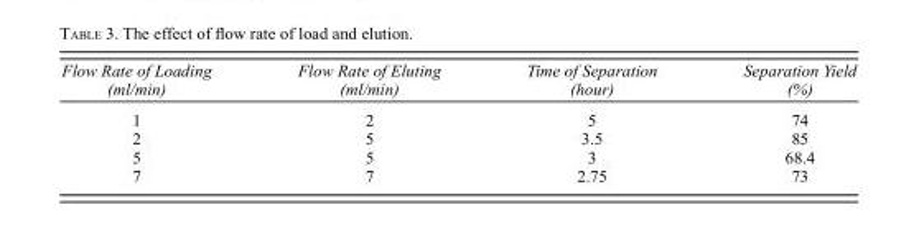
<table><thead><tr><td>Flow Rate of Loading (ml/min)</td><td>Flow Rate of Eluting (ml/min)</td><td>Time of Separation (hour)</td><td>Separation Yield (%)</td></tr></thead><tbody><tr><td>1</td><td>2</td><td>5</td><td>74</td></tr><tr><td>2</td><td>5</td><td>3.5</td><td>85</td></tr><tr><td>5</td><td>5</td><td>3</td><td>68.4</td></tr><tr><td>7</td><td>7</td><td>2.75</td><td>73</td></tr></tbody></table>